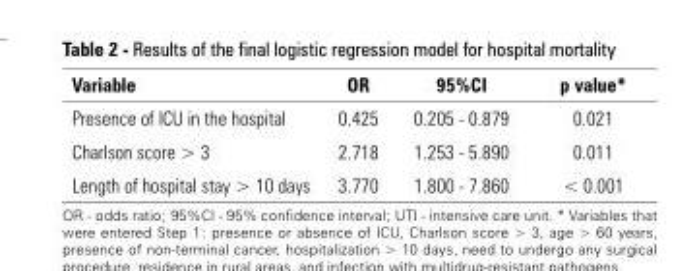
<table><thead><tr><td>Variable</td><td>OR</td><td>95%CI</td><td>p value*</td></tr></thead><tbody><tr><td>Presence of ICU in the hospital</td><td>0.425</td><td>0.205 - 0.879</td><td>0.021</td></tr><tr><td>Charlson score &gt; 3</td><td>2.718</td><td>1.253 - 5.890</td><td>0.011</td></tr><tr><td>Length of hospital stay &gt; 10 days</td><td>3.770</td><td>1.800 - 7.860</td><td>&lt; 0.001</td></tr></tbody></table>